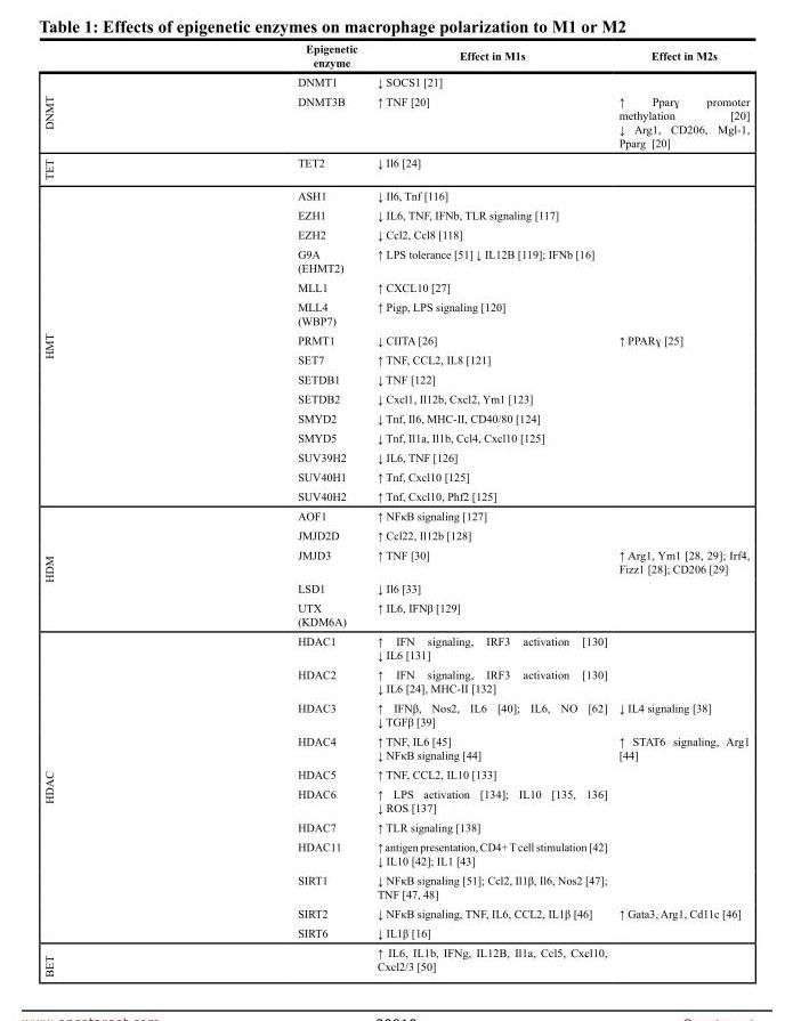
<table><thead><tr><td></td><td>Epigenetic enzyme</td><td>Effect in M1s</td><td>Effect in M2s</td></tr></thead><tbody><tr><td rowspan="2">DNMT</td><td>DNMT1</td><td>↓ SOCS1 [21]</td><td></td></tr><tr><td>DNMT3B</td><td>↑ TNF [20]</td><td>↑ Pparɣ promoter methylation [20] ↓ Arg1, CD206, Mgl-1, Pparg [20]</td></tr><tr><td>TET</td><td>TET2</td><td>↓ Il6 [24]</td><td></td></tr><tr><td rowspan="15">HMT</td><td>ASH1</td><td>↓ Il6, Tnf [116]</td><td></td></tr><tr><td>EZH1</td><td>↓ IL6, TNF, IFNb, TLR signaling [117]</td><td></td></tr><tr><td>EZH2</td><td>↓ Ccl2, Ccl8 [118]</td><td></td></tr><tr><td>G9A (EHMT2)</td><td>↑ LPS tolerance [51] ↓ IL12B [119]; IFNb [16]</td><td></td></tr><tr><td>MLL1</td><td>↑ CXCL10 [27]</td><td></td></tr><tr><td>MLL4 (WBP7)</td><td>↑ Pigp, LPS signaling [120]</td><td></td></tr><tr><td>PRMT1</td><td>↓ CIITA [26]</td><td>↑ PPARɣ [25]</td></tr><tr><td>SET7</td><td>↑ TNF, CCL2, IL8 [121]</td><td></td></tr><tr><td>SETDB1</td><td>↓ TNF [122]</td><td></td></tr><tr><td>SETDB2</td><td>↓ Cxcl1, Il12b, Cxcl2, Ym1 [123]</td><td></td></tr><tr><td>SMYD2</td><td>↓ Tnf, Il6, MHC-II, CD40/80 [124]</td><td></td></tr><tr><td>SMYD5</td><td>↓ Tnf, Il1a, Il1b, Ccl4, Cxcl10 [125]</td><td></td></tr><tr><td>SUV39H2</td><td>↓ IL6, TNF [126]</td><td></td></tr><tr><td>SUV40H1</td><td>↑ Tnf, Cxcl10 [125]</td><td></td></tr><tr><td>SUV40H2</td><td>↑ Tnf, Cxcl10, Phf2 [125]</td><td></td></tr><tr><td rowspan="5">HDM</td><td>AOF1</td><td>↑ NFκB signaling [127]</td><td></td></tr><tr><td>JMJD2D</td><td>↑ Ccl22, Il12b [128]</td><td></td></tr><tr><td>JMJD3</td><td>↑ TNF [30]</td><td>↑ Arg1, Ym1 [28, 29]; Irf4, Fizz1 [28]; CD206 [29]</td></tr><tr><td>LSD1</td><td>↓ Il6 [33]</td><td></td></tr><tr><td>UTX (KDM6A)</td><td>↑ IL6, IFNβ [129]</td><td></td></tr><tr><td rowspan="11">HDAC</td><td>HDAC1</td><td>↑ IFN signaling, IRF3 activation [130] ↓ IL6 [131]</td><td></td></tr><tr><td>HDAC2</td><td>↑ IFN signaling, IRF3 activation [130] ↓ IL6 [24], MHC-II [132]</td><td></td></tr><tr><td>HDAC3</td><td>↑ IFNβ, Nos2, IL6 [40]; IL6, NO [62] ↓ TGFβ [39]</td><td>↓ IL4 signaling [38]</td></tr><tr><td>HDAC4</td><td>↑ TNF, IL6 [45] ↓ NFκB signaling [44]</td><td>↑ STAT6 signaling, Arg1 [44]</td></tr><tr><td>HDAC5</td><td>↑ TNF, CCL2, IL10 [133]</td><td></td></tr><tr><td>HDAC6</td><td>↑ LPS activation [134]; IL10 [135, 136] ↓ ROS [137]</td><td></td></tr><tr><td>HDAC7</td><td>↑ TLR signaling [138]</td><td></td></tr><tr><td>HDAC11</td><td>↑ antigen presentation, CD4+ T cell stimulation [42] ↓ IL10 [42]; IL1 [43]</td><td></td></tr><tr><td>SIRT1</td><td>↓ NFκB signaling [51]; Ccl2, Il1β, Il6, Nos2 [47]; TNF [47, 48]</td><td></td></tr><tr><td>SIRT2</td><td>↓ NFκB signaling, TNF, IL6, CCL2, IL1β [46]</td><td>↑ Gata3, Arg1, Cd11c [46]</td></tr><tr><td>SIRT6</td><td>↓ IL1β [16]</td><td></td></tr><tr><td>BET</td><td></td><td>↑ IL6, IL1b, IFNg, IL12B, Il1a, Ccl5, Cxcl10, Cxcl2/3 [50]</td><td></td></tr></tbody></table>